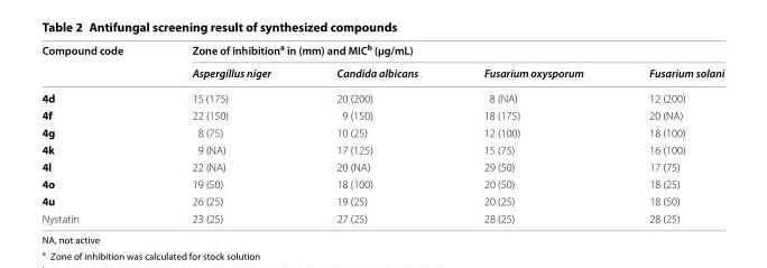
<table><thead><tr><td rowspan="2">Compound code</td><td colspan="4">Zone of inhibition<sup>a</sup> in (mm) and MIC<sup>b</sup> (μg/mL)</td></tr><tr><td>Aspergillus niger</td><td>Candida albicans</td><td>Fusarium oxysporum</td><td>Fusarium solani</td></tr></thead><tbody><tr><td>4d</td><td>15 (175)</td><td>20 (200)</td><td>8 (NA)</td><td>12 (200)</td></tr><tr><td>4f</td><td>22 (150)</td><td>9 (150)</td><td>18 (175)</td><td>20 (NA)</td></tr><tr><td>4g</td><td>8 (75)</td><td>10 (25)</td><td>12 (100)</td><td>18 (100)</td></tr><tr><td>4k</td><td>9 (NA)</td><td>17 (125)</td><td>15 (75)</td><td>16 (100)</td></tr><tr><td>4l</td><td>22 (NA)</td><td>20 (NA)</td><td>29 (50)</td><td>17 (75)</td></tr><tr><td>4o</td><td>19 (50)</td><td>18 (100)</td><td>20 (50)</td><td>18 (25)</td></tr><tr><td>4u</td><td>26 (25)</td><td>19 (25)</td><td>20 (25)</td><td>18 (50)</td></tr><tr><td>Nystatin</td><td>23 (25)</td><td>27 (25)</td><td>28 (25)</td><td>28 (25)</td></tr></tbody></table>